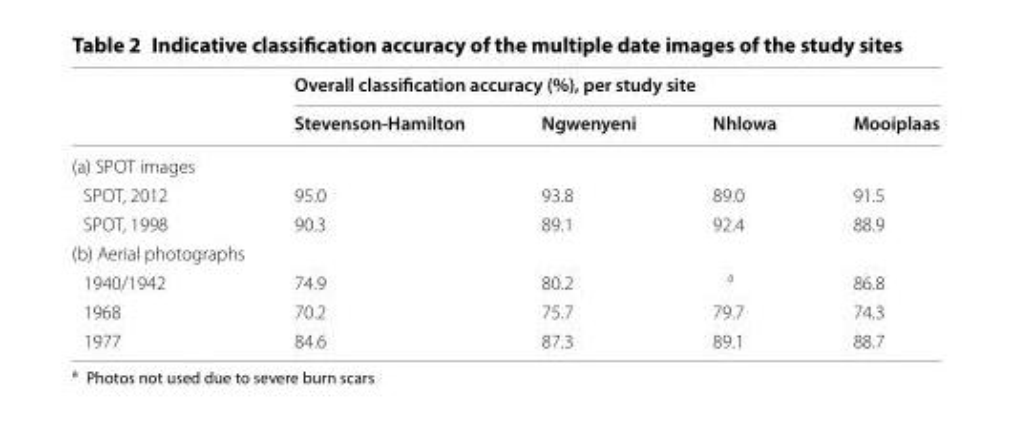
<table><thead><tr><td rowspan="2"></td><td colspan="4">Overall classification accuracy (%), per study site</td></tr><tr><td>Stevenson‑Hamilton</td><td>Ngwenyeni</td><td>Nhlowa</td><td>Mooiplaas</td></tr></thead><tbody><tr><td colspan="5">(a) SPOT images</td></tr><tr><td>SPOT, 2012</td><td>95.0</td><td>93.8</td><td>89.0</td><td>91.5</td></tr><tr><td>SPOT, 1998</td><td>90.3</td><td>89.1</td><td>92.4</td><td>88.9</td></tr><tr><td colspan="5">(b) Aerial photographs</td></tr><tr><td>1940/1942</td><td>74.9</td><td>80.2</td><td><sup>a</sup></td><td>86.8</td></tr><tr><td>1968</td><td>70.2</td><td>75.7</td><td>79.7</td><td>74.3</td></tr><tr><td>1977</td><td>84.6</td><td>87.3</td><td>89.1</td><td>88.7</td></tr></tbody></table>